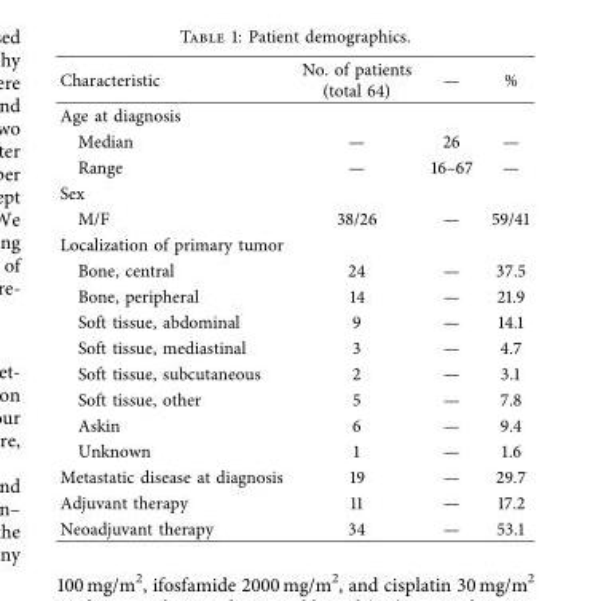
<table><thead><tr><td>Characteristic</td><td>No. of patients (total 64)</td><td>—</td><td>%</td></tr></thead><tbody><tr><td colspan="4">Age at diagnosis</td></tr><tr><td>Median</td><td>—</td><td>26</td><td>—</td></tr><tr><td>Range</td><td>—</td><td>16–67</td><td>—</td></tr><tr><td colspan="4">Sex</td></tr><tr><td>M/F</td><td>38/26</td><td>—</td><td>59/41</td></tr><tr><td colspan="4">Localization of primary tumor</td></tr><tr><td>Bone, central</td><td>24</td><td>—</td><td>37.5</td></tr><tr><td>Bone, peripheral</td><td>14</td><td>—</td><td>21.9</td></tr><tr><td>Soft tissue, abdominal</td><td>9</td><td>—</td><td>14.1</td></tr><tr><td>Soft tissue, mediastinal</td><td>3</td><td>—</td><td>4.7</td></tr><tr><td>Soft tissue, subcutaneous</td><td>2</td><td>—</td><td>3.1</td></tr><tr><td>Soft tissue, other</td><td>5</td><td>—</td><td>7.8</td></tr><tr><td>Askin</td><td>6</td><td>—</td><td>9.4</td></tr><tr><td>Unknown</td><td>1</td><td>—</td><td>1.6</td></tr><tr><td>Metastatic disease at diagnosis</td><td>19</td><td>—</td><td>29.7</td></tr><tr><td>Adjuvant therapy</td><td>11</td><td>—</td><td>17.2</td></tr><tr><td>Neoadjuvant therapy</td><td>34</td><td>—</td><td>53.1</td></tr></tbody></table>